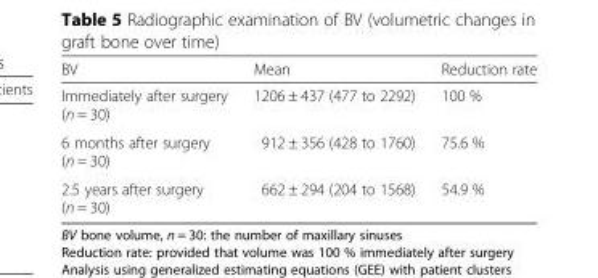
<table><thead><tr><td>BV</td><td>Mean</td><td>Reduction rate</td></tr></thead><tbody><tr><td>Immediately after surgery (n = 30)</td><td>1206 ± 437 (477 to 2292)</td><td>100 %</td></tr><tr><td>6 months after surgery (n = 30)</td><td>912 ± 356 (428 to 1760)</td><td>75.6 %</td></tr><tr><td>2.5 years after surgery (n = 30)</td><td>662 ± 294 (204 to 1568)</td><td>54.9 %</td></tr></tbody></table>